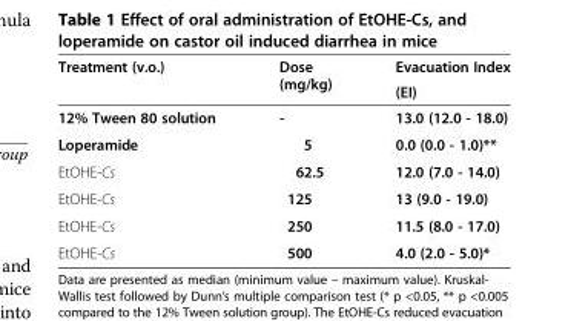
<table><thead><tr><td rowspan="2">Treatment (v.o.)</td><td rowspan="2">Dose (mg/kg)</td><td rowspan="2">Evacuation Index (EI)</td></tr><tr></tr></thead><tbody><tr><td>12% Tween 80 solution</td><td>-</td><td>13.0 (12.0 - 18.0)</td></tr><tr><td>Loperamide</td><td>5</td><td>0.0 (0.0 - 1.0)**</td></tr><tr><td>EtOHE-Cs</td><td>62.5</td><td>12.0 (7.0 - 14.0)</td></tr><tr><td>EtOHE-Cs</td><td>125</td><td>13 (9.0 - 19.0)</td></tr><tr><td>EtOHE-Cs</td><td>250</td><td>11.5 (8.0 - 17.0)</td></tr><tr><td>EtOHE-Cs</td><td>500</td><td>4.0 (2.0 - 5.0)*</td></tr></tbody></table>